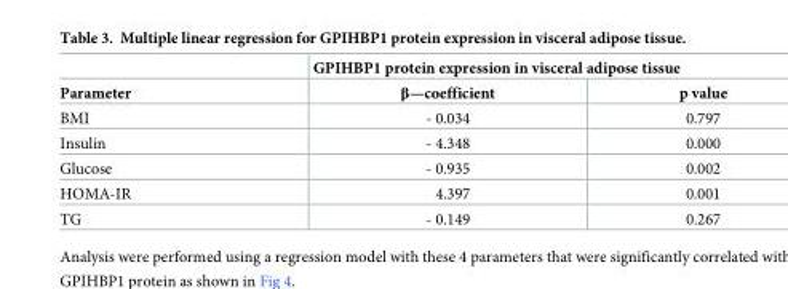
<table><thead><tr><td rowspan="2">Parameter</td><td colspan="2">GPIHBP1 protein expression in visceral adipose tissue</td></tr><tr><td>β—coefficient</td><td>p value</td></tr></thead><tbody><tr><td>BMI</td><td>- 0.034</td><td>0.797</td></tr><tr><td>Insulin</td><td>- 4.348</td><td>0.000</td></tr><tr><td>Glucose</td><td>- 0.935</td><td>0.002</td></tr><tr><td>HOMA-IR</td><td>4.397</td><td>0.001</td></tr><tr><td>TG</td><td>- 0.149</td><td>0.267</td></tr></tbody></table>